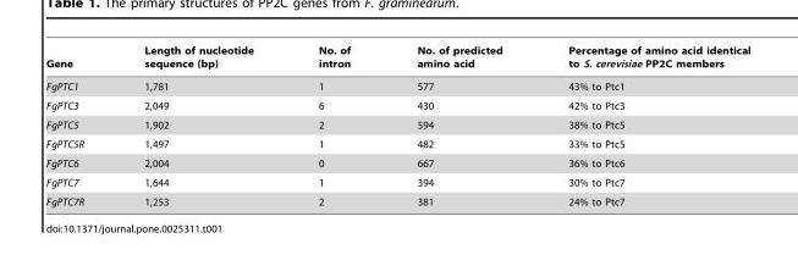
<table><thead><tr><td>Gene</td><td>Length of nucleotide sequence (bp)</td><td>No. of intron</td><td>No. of predicted amino acid</td><td>Percentage of amino acid identical to S. cerevisiae PP2C members</td></tr></thead><tbody><tr><td>FgPTC1</td><td>1,781</td><td>1</td><td>577</td><td>43% to Ptc1</td></tr><tr><td>FgPTC3</td><td>2,049</td><td>6</td><td>430</td><td>42% to Ptc3</td></tr><tr><td>FgPTC5</td><td>1,902</td><td>2</td><td>594</td><td>38% to Ptc5</td></tr><tr><td>FgPTC5R</td><td>1,497</td><td>1</td><td>482</td><td>33% to Ptc5</td></tr><tr><td>FgPTC6</td><td>2,004</td><td>0</td><td>667</td><td>36% to Ptc6</td></tr><tr><td>FgPTC7</td><td>1,644</td><td>1</td><td>394</td><td>30% to Ptc7</td></tr><tr><td>FgPTC7R</td><td>1,253</td><td>2</td><td>381</td><td>24% to Ptc7</td></tr></tbody></table>